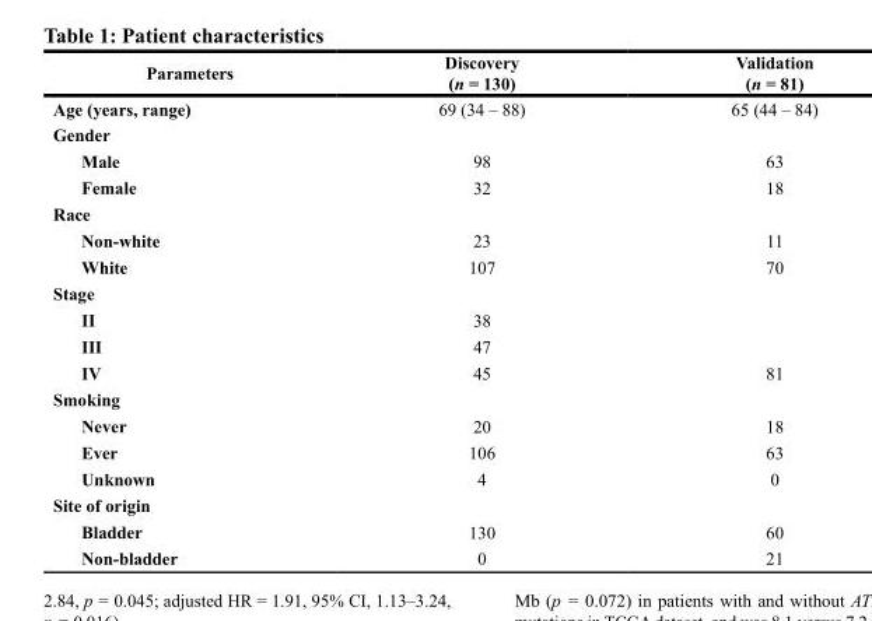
<table><thead><tr><td>Parameters</td><td>Discovery (n = 130)</td><td>Validation (n = 81)</td></tr></thead><tbody><tr><td>Age (years, range)</td><td>69 (34 – 88)</td><td>65 (44 – 84)</td></tr><tr><td colspan="3">Gender</td></tr><tr><td>Male</td><td>98</td><td>63</td></tr><tr><td>Female</td><td>32</td><td>18</td></tr><tr><td colspan="3">Race</td></tr><tr><td>Non-white</td><td>23</td><td>11</td></tr><tr><td>White</td><td>107</td><td>70</td></tr><tr><td colspan="3">Stage</td></tr><tr><td>II</td><td>38</td><td></td></tr><tr><td>III</td><td>47</td><td></td></tr><tr><td>IV</td><td>45</td><td>81</td></tr><tr><td colspan="3">Smoking</td></tr><tr><td>Never</td><td>20</td><td>18</td></tr><tr><td>Ever</td><td>106</td><td>63</td></tr><tr><td>Unknown</td><td>4</td><td>0</td></tr><tr><td colspan="3">Site of origin</td></tr><tr><td>Bladder</td><td>130</td><td>60</td></tr><tr><td>Non-bladder</td><td>0</td><td>21</td></tr></tbody></table>